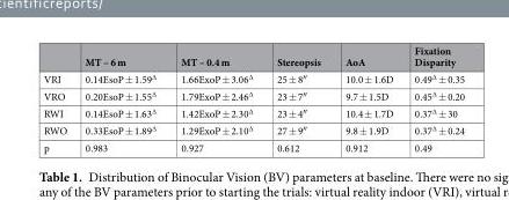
<table><thead><tr><td></td><td>MT – 6 m</td><td>MT – 0.4 m</td><td>Stereopsis</td><td>AoA</td><td>Fixation Disparity</td></tr></thead><tbody><tr><td>VRI</td><td>0.14EsoP ± 1.59<sup>∆</sup></td><td>1.66ExoP ± 3.06<sup>∆</sup></td><td>25 ± 8″</td><td>10.0 ± 1.6D</td><td>0.49<sup>∆</sup> ± 0.35</td></tr><tr><td>VRO</td><td>0.20EsoP ± 1.55<sup>∆</sup></td><td>1.79ExoP ± 2.46<sup>∆</sup></td><td>23 ± 7″</td><td>9.7 ± 1.5D</td><td>0.45<sup>∆</sup> ± 0.20</td></tr><tr><td>RWI</td><td>0.14EsoP ± 1.63<sup>∆</sup></td><td>1.42ExoP ± 2.30<sup>∆</sup></td><td>23 ± 4″</td><td>10.4 ± 1.7D</td><td>0.37<sup>∆</sup> ± 30</td></tr><tr><td>RWO</td><td>0.33EsoP ± 1.89<sup>∆</sup></td><td>1.29ExoP ± 2.10<sup>∆</sup></td><td>27 ± 9″</td><td>9.8 ± 1.9D</td><td>0.37<sup>∆</sup> ± 0.24</td></tr><tr><td>p</td><td>0.983</td><td>0.927</td><td>0.612</td><td>0.912</td><td>0.49</td></tr></tbody></table>